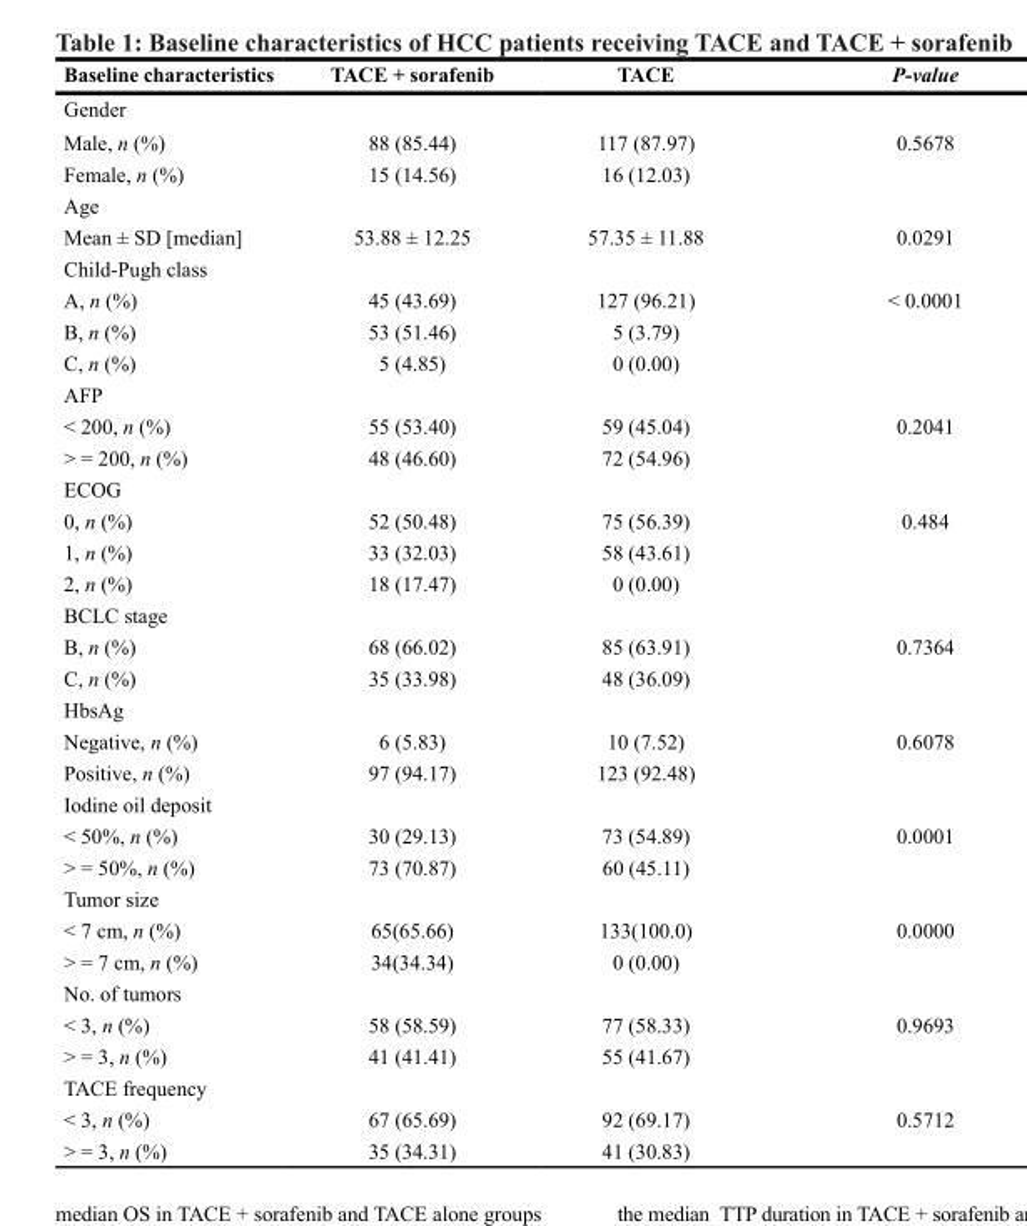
<table><thead><tr><td>Baseline characteristics</td><td>TACE + sorafenib</td><td>TACE</td><td>P-value</td></tr></thead><tbody><tr><td colspan="4">Gender</td></tr><tr><td>Male, n (%)</td><td>88 (85.44)</td><td>117 (87.97)</td><td>0.5678</td></tr><tr><td>Female, n (%)</td><td>15 (14.56)</td><td>16 (12.03)</td><td></td></tr><tr><td colspan="4">Age</td></tr><tr><td>Mean ± SD [median]</td><td>53.88 ± 12.25</td><td>57.35 ± 11.88</td><td>0.0291</td></tr><tr><td colspan="4">Child-Pugh class</td></tr><tr><td>A, n (%)</td><td>45 (43.69)</td><td>127 (96.21)</td><td>&lt; 0.0001</td></tr><tr><td>B, n (%)</td><td>53 (51.46)</td><td>5 (3.79)</td><td></td></tr><tr><td>C, n (%)</td><td>5 (4.85)</td><td>0 (0.00)</td><td></td></tr><tr><td colspan="4">AFP</td></tr><tr><td>&lt; 200, n (%)</td><td>55 (53.40)</td><td>59 (45.04)</td><td>0.2041</td></tr><tr><td>&gt; = 200, n (%)</td><td>48 (46.60)</td><td>72 (54.96)</td><td></td></tr><tr><td colspan="4">ECOG</td></tr><tr><td>0, n (%)</td><td>52 (50.48)</td><td>75 (56.39)</td><td>0.484</td></tr><tr><td>1, n (%)</td><td>33 (32.03)</td><td>58 (43.61)</td><td></td></tr><tr><td>2, n (%)</td><td>18 (17.47)</td><td>0 (0.00)</td><td></td></tr><tr><td colspan="4">BCLC stage</td></tr><tr><td>B, n (%)</td><td>68 (66.02)</td><td>85 (63.91)</td><td>0.7364</td></tr><tr><td>C, n (%)</td><td>35 (33.98)</td><td>48 (36.09)</td><td></td></tr><tr><td colspan="4">HbsAg</td></tr><tr><td>Negative, n (%)</td><td>6 (5.83)</td><td>10 (7.52)</td><td>0.6078</td></tr><tr><td>Positive, n (%)</td><td>97 (94.17)</td><td>123 (92.48)</td><td></td></tr><tr><td colspan="4">Iodine oil deposit</td></tr><tr><td>&lt; 50%, n (%)</td><td>30 (29.13)</td><td>73 (54.89)</td><td>0.0001</td></tr><tr><td>&gt; = 50%, n (%)</td><td>73 (70.87)</td><td>60 (45.11)</td><td></td></tr><tr><td colspan="4">Tumor size</td></tr><tr><td>&lt; 7 cm, n (%)</td><td>65(65.66)</td><td>133(100.0)</td><td>0.0000</td></tr><tr><td>&gt; = 7 cm, n (%)</td><td>34(34.34)</td><td>0 (0.00)</td><td></td></tr><tr><td colspan="4">No. of tumors</td></tr><tr><td>&lt; 3, n (%)</td><td>58 (58.59)</td><td>77 (58.33)</td><td>0.9693</td></tr><tr><td>&gt; = 3, n (%)</td><td>41 (41.41)</td><td>55 (41.67)</td><td></td></tr><tr><td colspan="4">TACE frequency</td></tr><tr><td>&lt; 3, n (%)</td><td>67 (65.69)</td><td>92 (69.17)</td><td>0.5712</td></tr><tr><td>&gt; = 3, n (%)</td><td>35 (34.31)</td><td>41 (30.83)</td><td></td></tr></tbody></table>